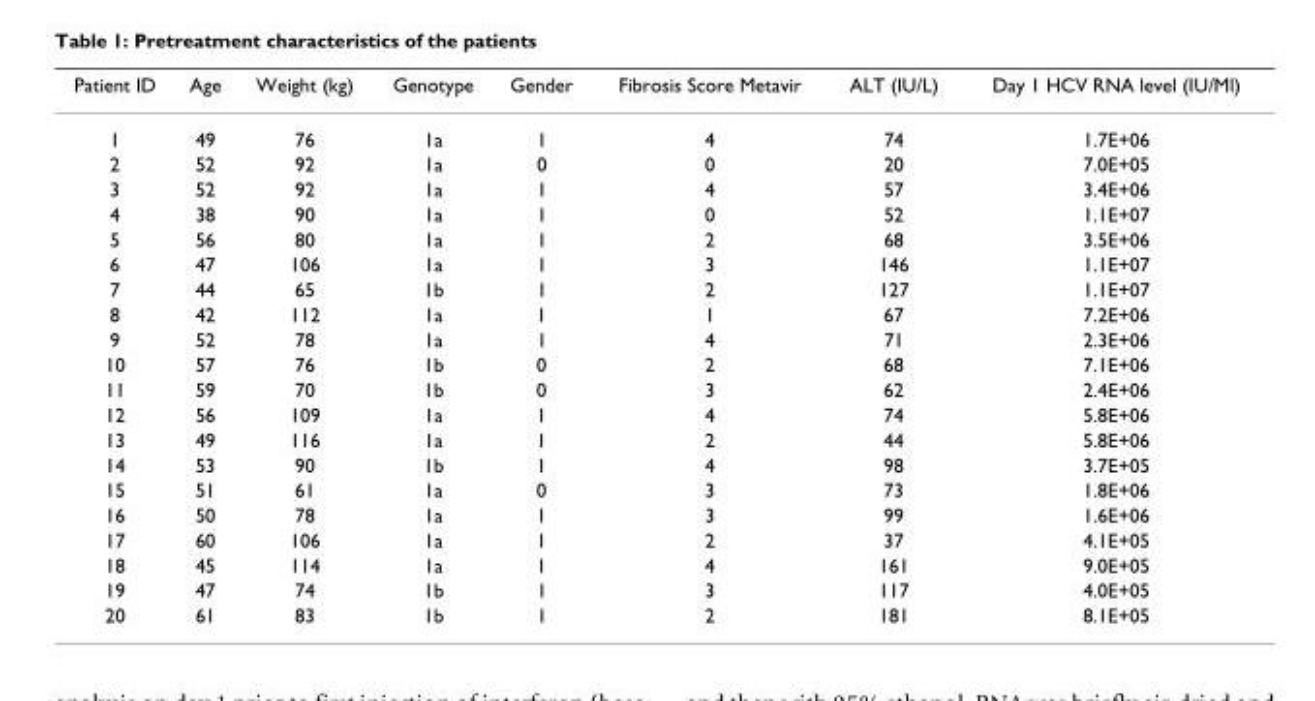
<table><thead><tr><td>Patient ID</td><td>Age</td><td>Weight (kg)</td><td>Genotype</td><td>Gender</td><td>Fibrosis Score Metavir</td><td>ALT (IU/L)</td><td>Day 1 HCV RNA level (IU/Ml)</td></tr></thead><tbody><tr><td>1</td><td>49</td><td>76</td><td>1a</td><td>1</td><td>4</td><td>74</td><td>1.7E+06</td></tr><tr><td>2</td><td>52</td><td>92</td><td>1a</td><td>0</td><td>0</td><td>20</td><td>7.0E+05</td></tr><tr><td>3</td><td>52</td><td>92</td><td>1a</td><td>1</td><td>4</td><td>57</td><td>3.4E+06</td></tr><tr><td>4</td><td>38</td><td>90</td><td>1a</td><td>1</td><td>0</td><td>52</td><td>1.1E+07</td></tr><tr><td>5</td><td>56</td><td>80</td><td>1a</td><td>1</td><td>2</td><td>68</td><td>3.5E+06</td></tr><tr><td>6</td><td>47</td><td>106</td><td>1a</td><td>1</td><td>3</td><td>146</td><td>1.1E+07</td></tr><tr><td>7</td><td>44</td><td>65</td><td>1b</td><td>1</td><td>2</td><td>127</td><td>1.1E+07</td></tr><tr><td>8</td><td>42</td><td>112</td><td>1a</td><td>1</td><td>1</td><td>67</td><td>7.2E+06</td></tr><tr><td>9</td><td>52</td><td>78</td><td>1a</td><td>1</td><td>4</td><td>71</td><td>2.3E+06</td></tr><tr><td>10</td><td>57</td><td>76</td><td>1b</td><td>0</td><td>2</td><td>68</td><td>7.1E+06</td></tr><tr><td>11</td><td>59</td><td>70</td><td>1b</td><td>0</td><td>3</td><td>62</td><td>2.4E+06</td></tr><tr><td>12</td><td>56</td><td>109</td><td>1a</td><td>1</td><td>4</td><td>74</td><td>5.8E+06</td></tr><tr><td>13</td><td>49</td><td>116</td><td>1a</td><td>1</td><td>2</td><td>44</td><td>5.8E+06</td></tr><tr><td>14</td><td>53</td><td>90</td><td>1b</td><td>1</td><td>4</td><td>98</td><td>3.7E+05</td></tr><tr><td>15</td><td>51</td><td>61</td><td>1a</td><td>0</td><td>3</td><td>73</td><td>1.8E+06</td></tr><tr><td>16</td><td>50</td><td>78</td><td>1a</td><td>1</td><td>3</td><td>99</td><td>1.6E+06</td></tr><tr><td>17</td><td>60</td><td>106</td><td>1a</td><td>1</td><td>2</td><td>37</td><td>4.1E+05</td></tr><tr><td>18</td><td>45</td><td>114</td><td>1a</td><td>1</td><td>4</td><td>161</td><td>9.0E+05</td></tr><tr><td>19</td><td>47</td><td>74</td><td>1b</td><td>1</td><td>3</td><td>117</td><td>4.0E+05</td></tr><tr><td>20</td><td>61</td><td>83</td><td>1b</td><td>1</td><td>2</td><td>181</td><td>8.1E+05</td></tr></tbody></table>